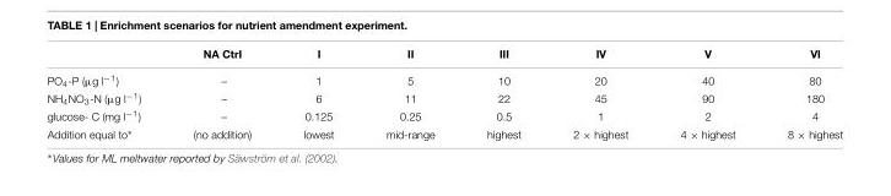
<table><thead><tr><td></td><td>NA CtrI</td><td>I</td><td>II</td><td>III</td><td>IV</td><td>V</td><td>VI</td></tr></thead><tbody><tr><td>PO<sub>4</sub>-P (µg l<sup>−1</sup>)</td><td>–</td><td>1</td><td>5</td><td>10</td><td>20</td><td>40</td><td>80</td></tr><tr><td>NH<sub>4</sub>NO<sub>3</sub>-N (µg l<sup>−1</sup>)</td><td>–</td><td>6</td><td>11</td><td>22</td><td>45</td><td>90</td><td>180</td></tr><tr><td>glucose- C (mg l<sup>−1</sup>)</td><td>–</td><td>0.125</td><td>0.25</td><td>0.5</td><td>1</td><td>2</td><td>4</td></tr><tr><td>Addition equal to∗</td><td>(no addition)</td><td>lowest</td><td>mid-range</td><td>highest</td><td>2 × highest</td><td>4 × highest</td><td>8 × highest</td></tr></tbody></table>